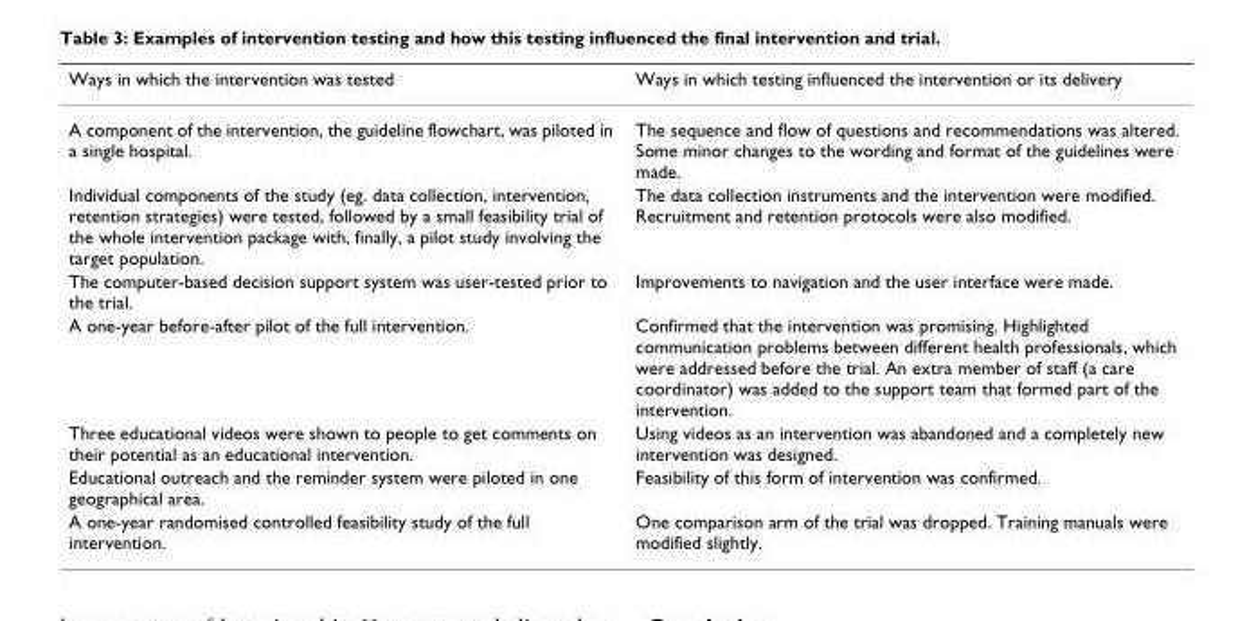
<table><thead><tr><td>Ways in which the intervention was tested</td><td>Ways in which testing influenced the intervention or its delivery</td></tr></thead><tbody><tr><td>A component of the intervention, the guideline flowchart, was piloted in a single hospital.</td><td>The sequence and flow of questions and recommendations was altered. Some minor changes to the wording and format of the guidelines were made.</td></tr><tr><td>Individual components of the study (eg. data collection, intervention, retention strategies) were tested, followed by a small feasibility trial of the whole intervention package with, finally, a pilot study involving the target population.</td><td>The data collection instruments and the intervention were modified. Recruitment and retention protocols were also modified.</td></tr><tr><td>The computer-based decision support system was user-tested prior to the trial.</td><td>Improvements to navigation and the user interface were made.</td></tr><tr><td>A one-year before-after pilot of the full intervention.</td><td>Confirmed that the intervention was promising. Highlighted communication problems between different health professionals, which were addressed before the trial. An extra member of staff (a care coordinator) was added to the support team that formed part of the intervention.</td></tr><tr><td>Three educational videos were shown to people to get comments on their potential as an educational intervention.</td><td>Using videos as an intervention was abandoned and a completely new intervention was designed.</td></tr><tr><td>Educational outreach and the reminder system were piloted in one geographical area.</td><td>Feasibility of this form of intervention was confirmed.</td></tr><tr><td>A one-year randomised controlled feasibility study of the full intervention.</td><td>One comparison arm of the trial was dropped. Training manuals were modified slightly.</td></tr></tbody></table>